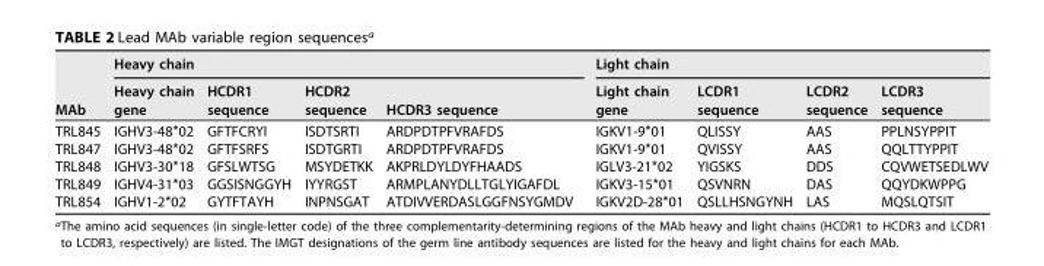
<table><thead><tr><td rowspan="2">MAb</td><td colspan="4">Heavy chain</td><td colspan="4">Light chain</td></tr><tr><td>Heavy chain gene</td><td>HCDR1 sequence</td><td>HCDR2 sequence</td><td>HCDR3 sequence</td><td>Light chain gene</td><td>LCDR1 sequence</td><td>LCDR2 sequence</td><td>LCDR3 sequence</td></tr></thead><tbody><tr><td>TRL845</td><td>IGHV3-48*02</td><td>GFTFCRYI</td><td>ISDTSRTI</td><td>ARDPDTPFVRAFDS</td><td>IGKV1-9*01</td><td>QLISSY</td><td>AAS</td><td>PPLNSYPPIT</td></tr><tr><td>TRL847</td><td>IGHV3-48*02</td><td>GFTFSRFS</td><td>ISDTGRTI</td><td>ARDPDTPFVRAFDS</td><td>IGKV1-9*01</td><td>QVISSY</td><td>AAS</td><td>QQLTTYPPIT</td></tr><tr><td>TRL848</td><td>IGHV3-30*18</td><td>GFSLWTSG</td><td>MSYDETKK</td><td>AKPRLDYLDYFHAADS</td><td>IGLV3-21*02</td><td>YIGSKS</td><td>DDS</td><td>CQVWETSEDLWV</td></tr><tr><td>TRL849</td><td>IGHV4-31*03</td><td>GGSISNGGYH</td><td>IYYRGST</td><td>ARMPLANYDLLTGLYIGAFDL</td><td>IGKV3-15*01</td><td>QSVNRN</td><td>DAS</td><td>QQYDKWPPG</td></tr><tr><td>TRL854</td><td>IGHV1-2*02</td><td>GYTFTAYH</td><td>INPNSGAT</td><td>ATDIVVERDASLGGFNSYGMDV</td><td>IGKV2D-28*01</td><td>QSLLHSNGYNH</td><td>LAS</td><td>MQSLQTSIT</td></tr></tbody></table>